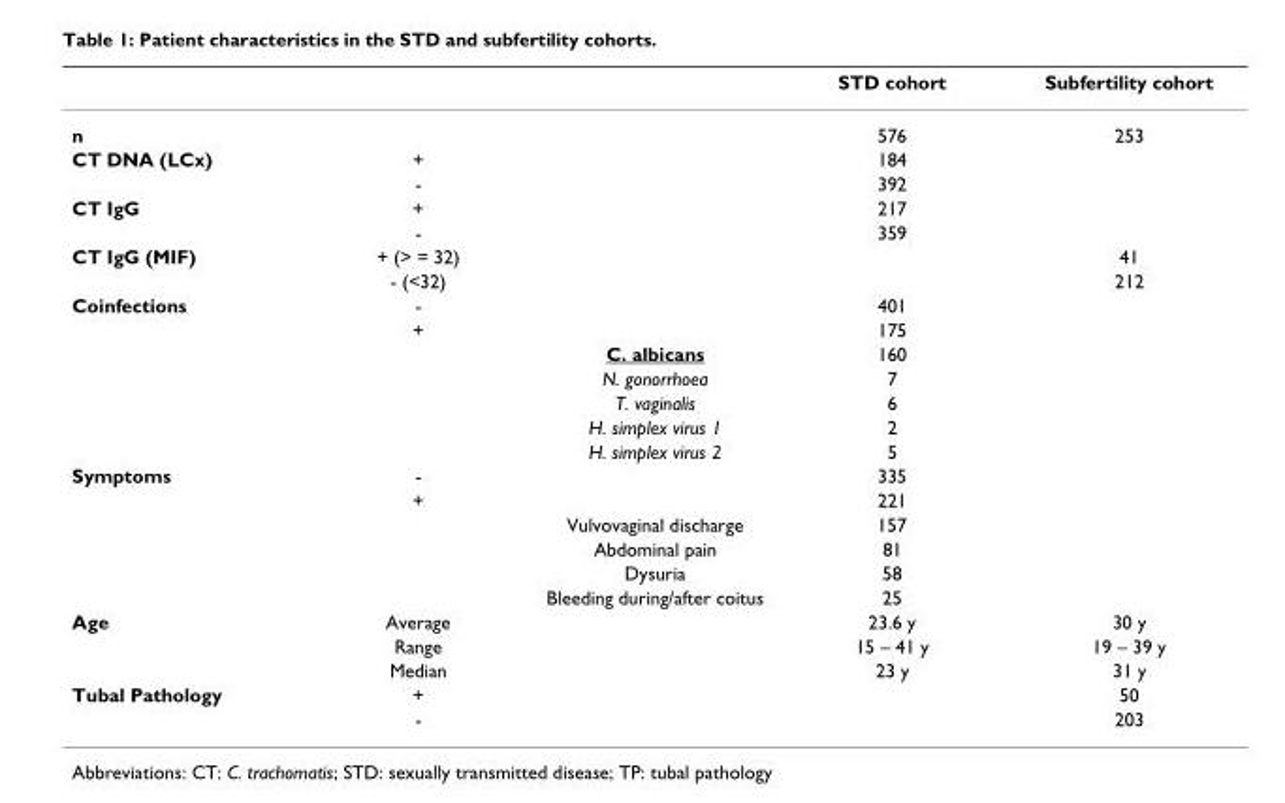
<table><thead><tr><td></td><td></td><td></td><td>STD cohort</td><td>Subfertility cohort</td></tr></thead><tbody><tr><td>n</td><td></td><td></td><td>576</td><td>253</td></tr><tr><td rowspan="2">CT DNA (LCx)</td><td>+</td><td></td><td>184</td><td></td></tr><tr><td>-</td><td></td><td>392</td><td></td></tr><tr><td rowspan="2">CT IgG</td><td>+</td><td></td><td>217</td><td></td></tr><tr><td>-</td><td></td><td>359</td><td></td></tr><tr><td rowspan="2">CT IgG (MIF)</td><td>+ (&gt; = 32)</td><td></td><td></td><td>41</td></tr><tr><td>- (&lt;32)</td><td></td><td></td><td>212</td></tr><tr><td rowspan="7">Coinfections</td><td>-</td><td></td><td>401</td><td></td></tr><tr><td>+</td><td></td><td>175</td><td></td></tr><tr><td></td><td>C. albicans</td><td>160</td><td></td></tr><tr><td></td><td>N. gonorrhoea</td><td>7</td><td></td></tr><tr><td></td><td>T. vaginalis</td><td>6</td><td></td></tr><tr><td></td><td>H. simplex virus 1</td><td>2</td><td></td></tr><tr><td></td><td>H. simplex virus 2</td><td>5</td><td></td></tr><tr><td rowspan="6">Symptoms</td><td>-</td><td></td><td>335</td><td></td></tr><tr><td>+</td><td></td><td>221</td><td></td></tr><tr><td></td><td>Vulvovaginal discharge</td><td>157</td><td></td></tr><tr><td></td><td>Abdominal pain</td><td>81</td><td></td></tr><tr><td></td><td>Dysuria</td><td>58</td><td></td></tr><tr><td></td><td>Bleeding during/after coitus</td><td>25</td><td></td></tr><tr><td rowspan="3">Age</td><td>Average</td><td></td><td>23.6 y</td><td>30 y</td></tr><tr><td>Range</td><td></td><td>15 – 41 y</td><td>19 – 39 y</td></tr><tr><td>Median</td><td></td><td>23 y</td><td>31 y</td></tr><tr><td rowspan="2">Tubal Pathology</td><td>+</td><td></td><td></td><td>50</td></tr><tr><td>-</td><td></td><td></td><td>203</td></tr></tbody></table>